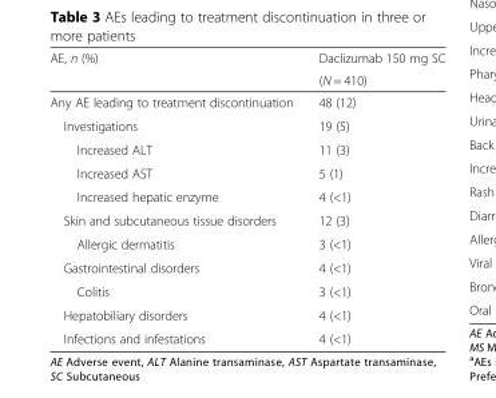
<table><thead><tr><td rowspan="2">AE, n (%)</td><td rowspan="2">Daclizumab 150 mg SC (N = 410)</td></tr><tr></tr></thead><tbody><tr><td>Any AE leading to treatment discontinuation</td><td>48 (12)</td></tr><tr><td>Investigations</td><td>19 (5)</td></tr><tr><td>Increased ALT</td><td>11 (3)</td></tr><tr><td>Increased AST</td><td>5 (1)</td></tr><tr><td>Increased hepatic enzyme</td><td>4 (&lt;1)</td></tr><tr><td>Skin and subcutaneous tissue disorders</td><td>12 (3)</td></tr><tr><td>Allergic dermatitis</td><td>3 (&lt;1)</td></tr><tr><td>Gastrointestinal disorders</td><td>4 (&lt;1)</td></tr><tr><td>Colitis</td><td>3 (&lt;1)</td></tr><tr><td>Hepatobiliary disorders</td><td>4 (&lt;1)</td></tr><tr><td>Infections and infestations</td><td>4 (&lt;1)</td></tr></tbody></table>